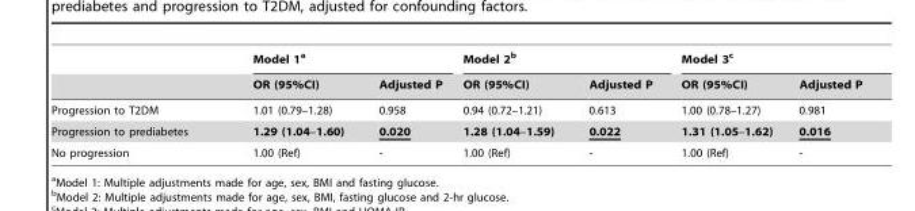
<table><thead><tr><td rowspan="2"></td><td colspan="2">Model 1<sup>a</sup></td><td colspan="2">Model 2<sup>b</sup></td><td colspan="2">Model 3<sup>c</sup></td></tr><tr><td>OR (95%CI)</td><td>Adjusted P</td><td>OR (95%CI)</td><td>Adjusted P</td><td>OR (95%CI)</td><td>Adjusted P</td></tr></thead><tbody><tr><td>Progression to T2DM</td><td>1.01 (0.79–1.28)</td><td>0.958</td><td>0.94 (0.72–1.21)</td><td>0.613</td><td>1.00 (0.78–1.27)</td><td>0.981</td></tr><tr><td>Progression to prediabetes</td><td>1.29 (1.04–1.60)</td><td>0.020</td><td>1.28 (1.04–1.59)</td><td>0.022</td><td>1.31 (1.05–1.62)</td><td>0.016</td></tr><tr><td>No progression</td><td>1.00 (Ref)</td><td>-</td><td>1.00 (Ref)</td><td>-</td><td>1.00 (Ref)</td><td>-</td></tr></tbody></table>